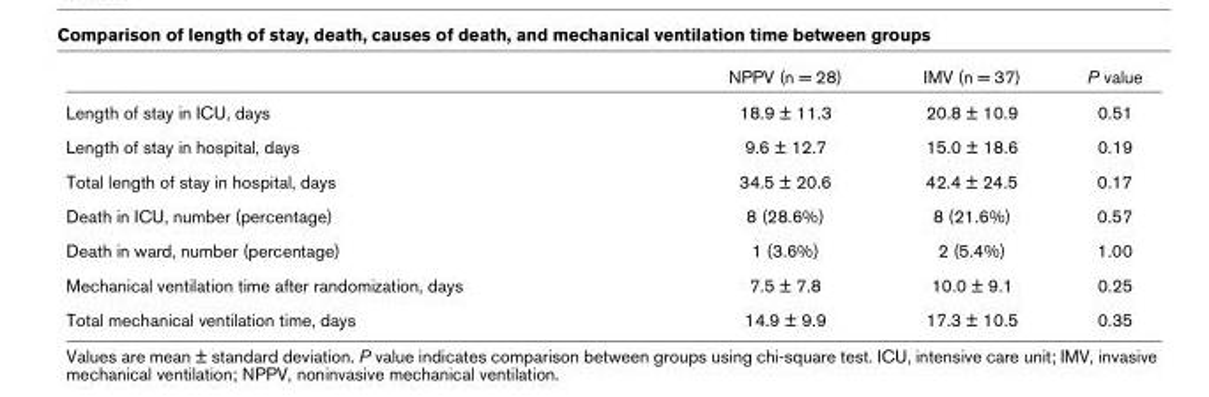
<table><thead><tr><td></td><td>NPPV (n = 28)</td><td>IMV (n = 37)</td><td>P value</td></tr></thead><tbody><tr><td>Length of stay in ICU, days</td><td>18.9 ± 11.3</td><td>20.8 ± 10.9</td><td>0.51</td></tr><tr><td>Length of stay in hospital, days</td><td>9.6 ± 12.7</td><td>15.0 ± 18.6</td><td>0.19</td></tr><tr><td>Total length of stay in hospital, days</td><td>34.5 ± 20.6</td><td>42.4 ± 24.5</td><td>0.17</td></tr><tr><td>Death in ICU, number (percentage)</td><td>8 (28.6%)</td><td>8 (21.6%)</td><td>0.57</td></tr><tr><td>Death in ward, number (percentage)</td><td>1 (3.6%)</td><td>2 (5.4%)</td><td>1.00</td></tr><tr><td>Mechanical ventilation time after randomization, days</td><td>7.5 ± 7.8</td><td>10.0 ± 9.1</td><td>0.25</td></tr><tr><td>Total mechanical ventilation time, days</td><td>14.9 ± 9.9</td><td>17.3 ± 10.5</td><td>0.35</td></tr></tbody></table>